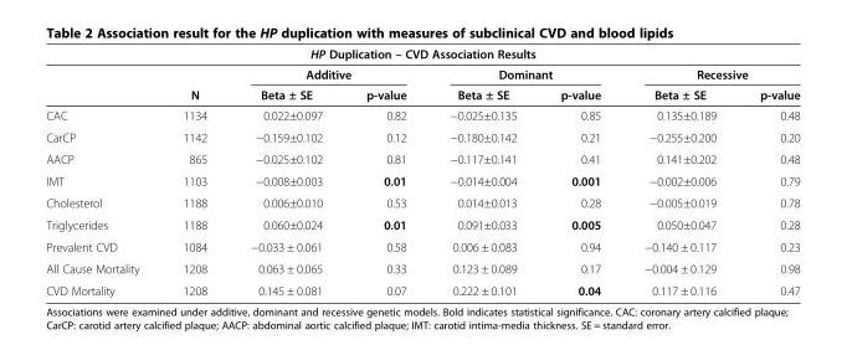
<table><thead><tr><td colspan="8">HP Duplication – CVD Association Results</td></tr><tr><td rowspan="2"></td><td rowspan="2">N</td><td colspan="2">Additive</td><td colspan="2">Dominant</td><td colspan="2">Recessive</td></tr><tr><td>Beta ± SE</td><td>p-value</td><td>Beta ± SE</td><td>p-value</td><td>Beta ± SE</td><td>p-value</td></tr></thead><tbody><tr><td>CAC</td><td>1134</td><td>0.022±0.097</td><td>0.82</td><td>−0.025±0.135</td><td>0.85</td><td>0.135±0.189</td><td>0.48</td></tr><tr><td>CarCP</td><td>1142</td><td>−0.159±0.102</td><td>0.12</td><td>−0.180±0.142</td><td>0.21</td><td>−0.255±0.200</td><td>0.20</td></tr><tr><td>AACP</td><td>865</td><td>−0.025±0.102</td><td>0.81</td><td>−0.117±0.141</td><td>0.41</td><td>0.141±0.202</td><td>0.48</td></tr><tr><td>IMT</td><td>1103</td><td>−0.008±0.003</td><td>0.01</td><td>−0.014±0.004</td><td>0.001</td><td>−0.002±0.006</td><td>0.79</td></tr><tr><td>Cholesterol</td><td>1188</td><td>0.006±0.010</td><td>0.53</td><td>0.014±0.013</td><td>0.28</td><td>−0.005±0.019</td><td>0.78</td></tr><tr><td>Triglycerides</td><td>1188</td><td>0.060±0.024</td><td>0.01</td><td>0.091±0.033</td><td>0.005</td><td>0.050±0.047</td><td>0.28</td></tr><tr><td>Prevalent CVD</td><td>1084</td><td>−0.033 ± 0.061</td><td>0.58</td><td>0.006 ± 0.083</td><td>0.94</td><td>−0.140 ± 0.117</td><td>0.23</td></tr><tr><td>All Cause Mortality</td><td>1208</td><td>0.063 ± 0.065</td><td>0.33</td><td>0.123 ± 0.089</td><td>0.17</td><td>−0.004 ± 0.129</td><td>0.98</td></tr><tr><td>CVD Mortality</td><td>1208</td><td>0.145 ± 0.081</td><td>0.07</td><td>0.222 ± 0.101</td><td>0.04</td><td>0.117 ± 0.116</td><td>0.47</td></tr></tbody></table>